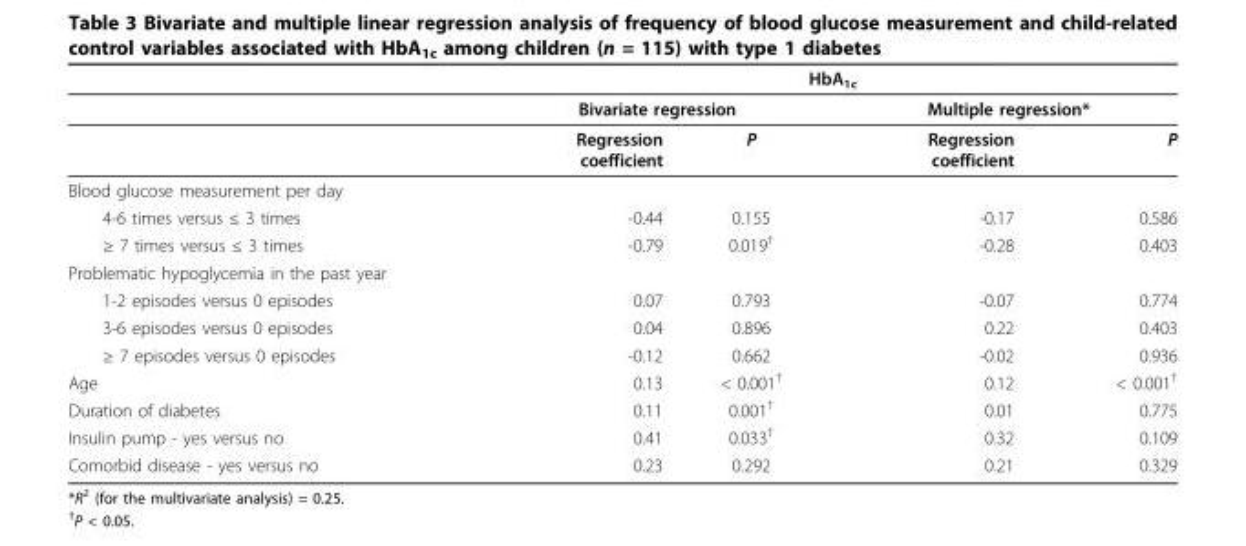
<table><thead><tr><td rowspan="3"></td><td colspan="4">HbA<sub>1c</sub></td></tr><tr><td colspan="2">Bivariate regression</td><td colspan="2">Multiple regression*</td></tr><tr><td>Regression coefficient</td><td>P</td><td>Regression coefficient</td><td>P</td></tr></thead><tbody><tr><td colspan="5">Blood glucose measurement per day</td></tr><tr><td>4-6 times versus ≤ 3 times</td><td>-0.44</td><td>0.155</td><td>-0.17</td><td>0.586</td></tr><tr><td>≥ 7 times versus ≤ 3 times</td><td>-0.79</td><td>0.019<sup>†</sup></td><td>-0.28</td><td>0.403</td></tr><tr><td colspan="5">Problematic hypoglycemia in the past year</td></tr><tr><td>1-2 episodes versus 0 episodes</td><td>0.07</td><td>0.793</td><td>-0.07</td><td>0.774</td></tr><tr><td>3-6 episodes versus 0 episodes</td><td>0.04</td><td>0.896</td><td>0.22</td><td>0.403</td></tr><tr><td>≥ 7 episodes versus 0 episodes</td><td>-0.12</td><td>0.662</td><td>-0.02</td><td>0.936</td></tr><tr><td>Age</td><td>0.13</td><td>&lt; 0.001<sup>†</sup></td><td>0.12</td><td>&lt; 0.001<sup>†</sup></td></tr><tr><td>Duration of diabetes</td><td>0.11</td><td>0.001<sup>†</sup></td><td>0.01</td><td>0.775</td></tr><tr><td>Insulin pump - yes versus no</td><td>0.41</td><td>0.033<sup>†</sup></td><td>0.32</td><td>0.109</td></tr><tr><td>Comorbid disease - yes versus no</td><td>0.23</td><td>0.292</td><td>0.21</td><td>0.329</td></tr></tbody></table>